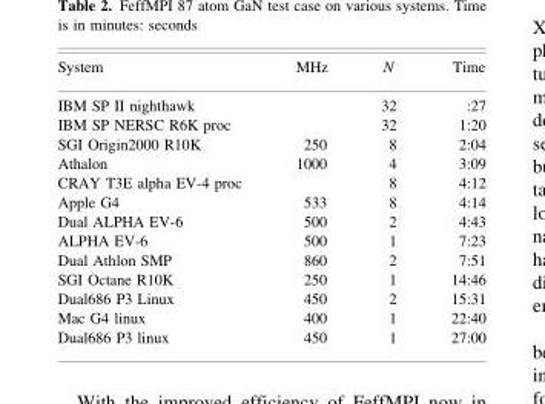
<table><thead><tr><td>System</td><td>MHz</td><td>N</td><td>Time</td></tr></thead><tbody><tr><td>IBM SP II nighthawk</td><td></td><td>32</td><td>:27</td></tr><tr><td>IBM SP NERSC R6K proc</td><td></td><td>32</td><td>1:20</td></tr><tr><td>SGI Origin2000 R10K</td><td>250</td><td>8</td><td>2:04</td></tr><tr><td>Athalon</td><td>1000</td><td>4</td><td>3:09</td></tr><tr><td>CRAY T3E alpha EV-4 proc</td><td></td><td>8</td><td>4:12</td></tr><tr><td>Apple G4</td><td>533</td><td>8</td><td>4:14</td></tr><tr><td>Dual ALPHA EV-6</td><td>500</td><td>2</td><td>4:43</td></tr><tr><td>ALPHA EV-6</td><td>500</td><td>1</td><td>7:23</td></tr><tr><td>Dual Athlon SMP</td><td>860</td><td>2</td><td>7:51</td></tr><tr><td>SGI Octane R10K</td><td>250</td><td>1</td><td>14:46</td></tr><tr><td>Dual686 P3 Linux</td><td>450</td><td>2</td><td>15:31</td></tr><tr><td>Mac G4 linux</td><td>400</td><td>1</td><td>22:40</td></tr><tr><td>Dual686 P3 linux</td><td>450</td><td>1</td><td>27:00</td></tr></tbody></table>